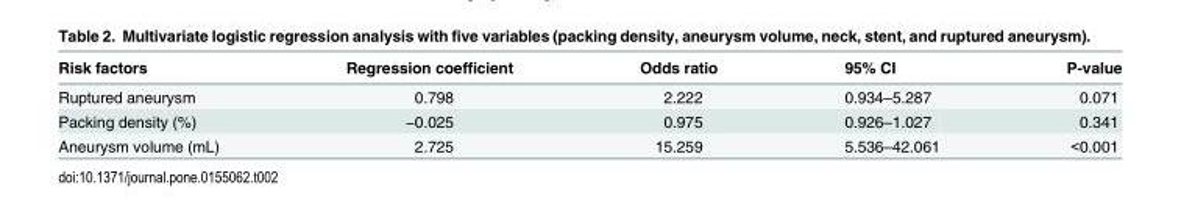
<table><thead><tr><td>Risk factors</td><td>Regression coefficient</td><td>Odds ratio</td><td>95% CI</td><td>P-value</td></tr></thead><tbody><tr><td>Ruptured aneurysm</td><td>0.798</td><td>2.222</td><td>0.934–5.287</td><td>0.071</td></tr><tr><td>Packing density (%)</td><td>−0.025</td><td>0.975</td><td>0.926–1.027</td><td>0.341</td></tr><tr><td>Aneurysm volume (mL)</td><td>2.725</td><td>15.259</td><td>5.536–42.061</td><td>&lt;0.001</td></tr></tbody></table>